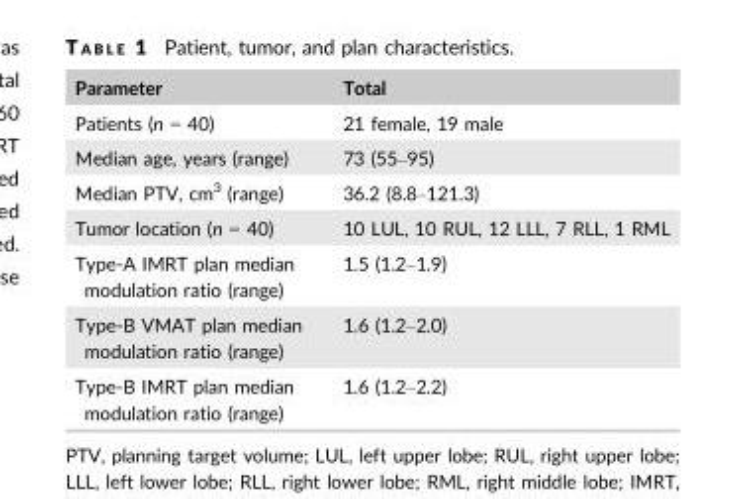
<table><thead><tr><td>Parameter</td><td>Total</td></tr></thead><tbody><tr><td>Patients (n = 40)</td><td>21 female, 19 male</td></tr><tr><td>Median age, years (range)</td><td>73 (55–95)</td></tr><tr><td>Median PTV, cm<sup>3</sup> (range)</td><td>36.2 (8.8–121.3)</td></tr><tr><td>Tumor location (n = 40)</td><td>10 LUL, 10 RUL, 12 LLL, 7 RLL, 1 RML</td></tr><tr><td>Type-A IMRT plan median modulation ratio (range)</td><td>1.5 (1.2–1.9)</td></tr><tr><td>Type-B VMAT plan median modulation ratio (range)</td><td>1.6 (1.2–2.0)</td></tr><tr><td>Type-B IMRT plan median modulation ratio (range)</td><td>1.6 (1.2–2.2)</td></tr></tbody></table>